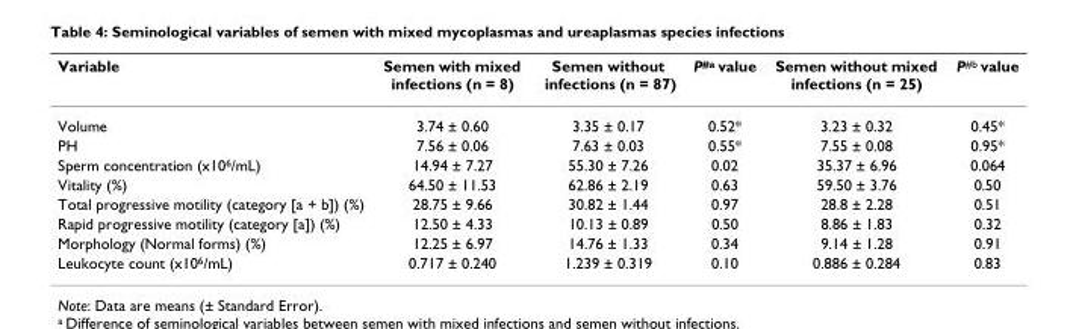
<table><thead><tr><td>Variable</td><td>Semen with mixed infections (n = 8)</td><td>Semen without infections (n = 87)</td><td>P<sup>#a</sup> value</td><td>Semen without mixed infections (n = 25)</td><td>P<sup>#b</sup> value</td></tr></thead><tbody><tr><td>Volume</td><td>3.74 ± 0.60</td><td>3.35 ± 0.17</td><td>0.52*</td><td>3.23 ± 0.32</td><td>0.45*</td></tr><tr><td>PH</td><td>7.56 ± 0.06</td><td>7.63 ± 0.03</td><td>0.55*</td><td>7.55 ± 0.08</td><td>0.95*</td></tr><tr><td>Sperm concentration (x10<sup>6</sup>/mL)</td><td>14.94 ± 7.27</td><td>55.30 ± 7.26</td><td>0.02</td><td>35.37 ± 6.96</td><td>0.064</td></tr><tr><td>Vitality (%)</td><td>64.50 ± 11.53</td><td>62.86 ± 2.19</td><td>0.63</td><td>59.50 ± 3.76</td><td>0.50</td></tr><tr><td>Total progressive motility (category [a + b]) (%)</td><td>28.75 ± 9.66</td><td>30.82 ± 1.44</td><td>0.97</td><td>28.8 ± 2.28</td><td>0.51</td></tr><tr><td>Rapid progressive motility (category [a]) (%)</td><td>12.50 ± 4.33</td><td>10.13 ± 0.89</td><td>0.50</td><td>8.86 ± 1.83</td><td>0.32</td></tr><tr><td>Morphology (Normal forms) (%)</td><td>12.25 ± 6.97</td><td>14.76 ± 1.33</td><td>0.34</td><td>9.14 ± 1.28</td><td>0.91</td></tr><tr><td>Leukocyte count (x10<sup>6</sup>/mL)</td><td>0.717 ± 0.240</td><td>1.239 ± 0.319</td><td>0.10</td><td>0.886 ± 0.284</td><td>0.83</td></tr></tbody></table>